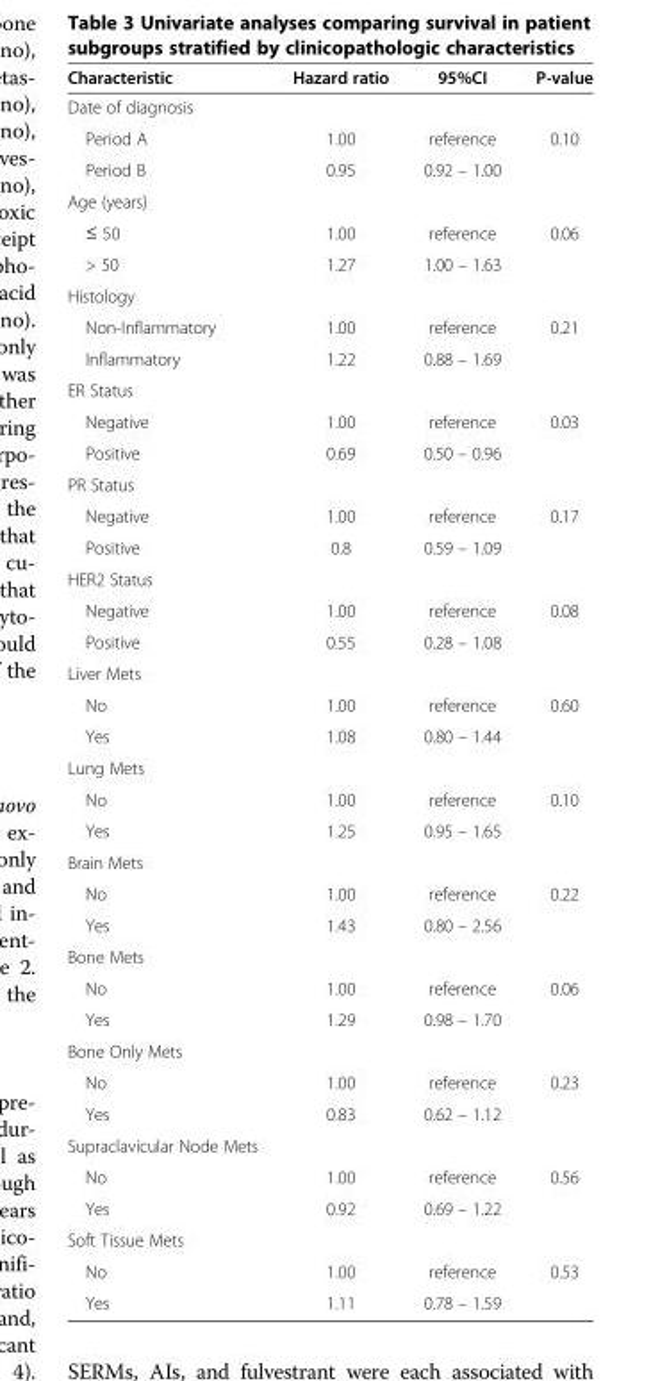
<table><thead><tr><td>Characteristic</td><td>Hazard ratio</td><td>95%CI</td><td>P-value</td></tr></thead><tbody><tr><td colspan="4">Date of diagnosis</td></tr><tr><td>Period A</td><td>1.00</td><td>reference</td><td>0.10</td></tr><tr><td>Period B</td><td>0.95</td><td>0.92 – 1.00</td><td></td></tr><tr><td colspan="4">Age (years)</td></tr><tr><td>≤ 50</td><td>1.00</td><td>reference</td><td>0.06</td></tr><tr><td>&gt; 50</td><td>1.27</td><td>1.00 – 1.63</td><td></td></tr><tr><td colspan="4">Histology</td></tr><tr><td>Non-Inflammatory</td><td>1.00</td><td>reference</td><td>0.21</td></tr><tr><td>Inflammatory</td><td>1.22</td><td>0.88 – 1.69</td><td></td></tr><tr><td colspan="4">ER Status</td></tr><tr><td>Negative</td><td>1.00</td><td>reference</td><td>0.03</td></tr><tr><td>Positive</td><td>0.69</td><td>0.50 – 0.96</td><td></td></tr><tr><td colspan="4">PR Status</td></tr><tr><td>Negative</td><td>1.00</td><td>reference</td><td>0.17</td></tr><tr><td>Positive</td><td>0.8</td><td>0.59 – 1.09</td><td></td></tr><tr><td colspan="4">HER2 Status</td></tr><tr><td>Negative</td><td>1.00</td><td>reference</td><td>0.08</td></tr><tr><td>Positive</td><td>0.55</td><td>0.28 – 1.08</td><td></td></tr><tr><td colspan="4">Liver Mets</td></tr><tr><td>No</td><td>1.00</td><td>reference</td><td>0.60</td></tr><tr><td>Yes</td><td>1.08</td><td>0.80 – 1.44</td><td></td></tr><tr><td colspan="4">Lung Mets</td></tr><tr><td>No</td><td>1.00</td><td>reference</td><td>0.10</td></tr><tr><td>Yes</td><td>1.25</td><td>0.95 – 1.65</td><td></td></tr><tr><td colspan="4">Brain Mets</td></tr><tr><td>No</td><td>1.00</td><td>reference</td><td>0.22</td></tr><tr><td>Yes</td><td>1.43</td><td>0.80 – 2.56</td><td></td></tr><tr><td colspan="4">Bone Mets</td></tr><tr><td>No</td><td>1.00</td><td>reference</td><td>0.06</td></tr><tr><td>Yes</td><td>1.29</td><td>0.98 – 1.70</td><td></td></tr><tr><td colspan="4">Bone Only Mets</td></tr><tr><td>No</td><td>1.00</td><td>reference</td><td>0.23</td></tr><tr><td>Yes</td><td>0.83</td><td>0.62 – 1.12</td><td></td></tr><tr><td colspan="4">Supraclavicular Node Mets</td></tr><tr><td>No</td><td>1.00</td><td>reference</td><td>0.56</td></tr><tr><td>Yes</td><td>0.92</td><td>0.69 – 1.22</td><td></td></tr><tr><td colspan="4">Soft Tissue Mets</td></tr><tr><td>No</td><td>1.00</td><td>reference</td><td>0.53</td></tr><tr><td>Yes</td><td>1.11</td><td>0.78 – 1.59</td><td></td></tr></tbody></table>